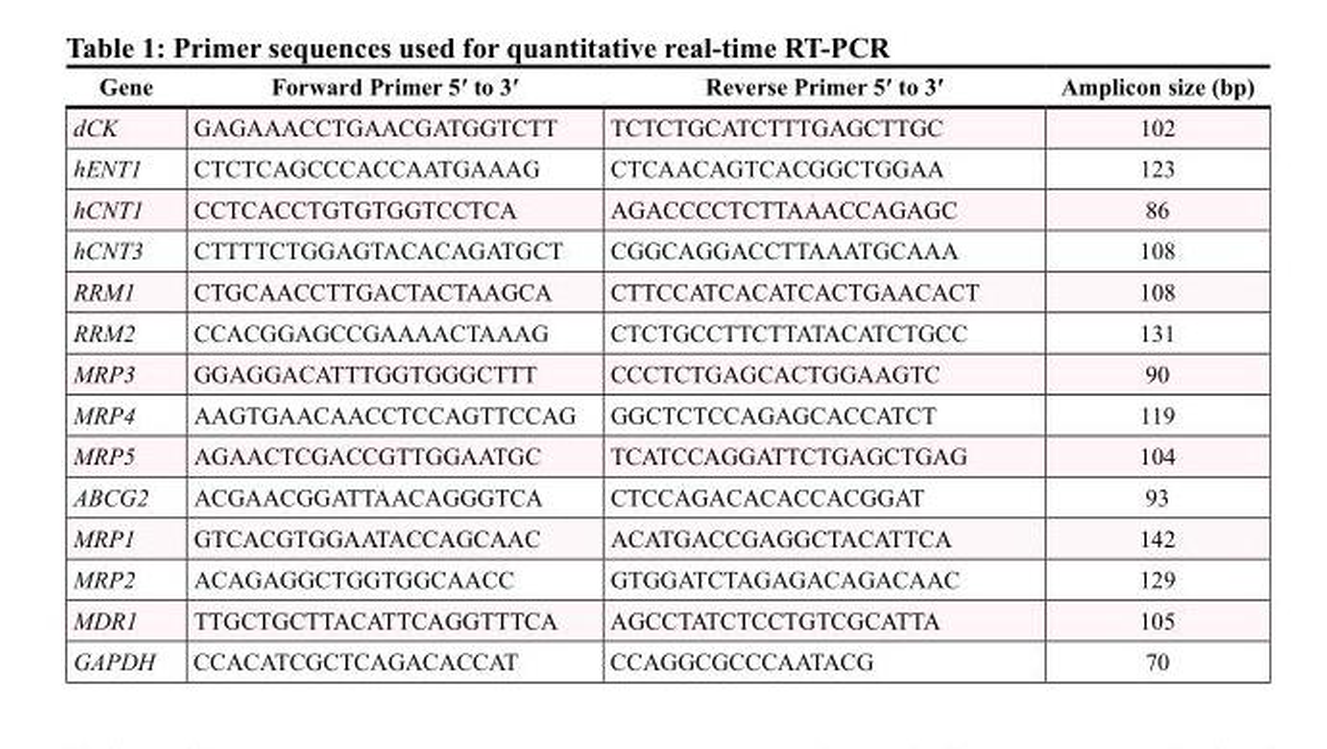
<table><thead><tr><td>Gene</td><td>Forward Primer 5′ to 3′</td><td>Reverse Primer 5′ to 3′</td><td>Amplicon size (bp)</td></tr></thead><tbody><tr><td>dCK</td><td>GAGAAACCTGAACGATGGTCTT</td><td>TCTCTGCATCTTTGAGCTTGC</td><td>102</td></tr><tr><td>hENT1</td><td>CTCTCAGCCCACCAATGAAAG</td><td>CTCAACAGTCACGGCTGGAA</td><td>123</td></tr><tr><td>hCNT1</td><td>CCTCACCTGTGTGGTCCTCA</td><td>AGACCCCTCTTAAACCAGAGC</td><td>86</td></tr><tr><td>hCNT3</td><td>CTTTTCTGGAGTACACAGATGCT</td><td>CGGCAGGACCTTAAATGCAAA</td><td>108</td></tr><tr><td>RRM1</td><td>CTGCAACCTTGACTACTAAGCA</td><td>CTTCCATCACATCACTGAACACT</td><td>108</td></tr><tr><td>RRM2</td><td>CCACGGAGCCGAAAACTAAAG</td><td>CTCTGCCTTCTTATACATCTGCC</td><td>131</td></tr><tr><td>MRP3</td><td>GGAGGACATTTGGTGGGCTTT</td><td>CCCTCTGAGCACTGGAAGTC</td><td>90</td></tr><tr><td>MRP4</td><td>AAGTGAACAACCTCCAGTTCCAG</td><td>GGCTCTCCAGAGCACCATCT</td><td>119</td></tr><tr><td>MRP5</td><td>AGAACTCGACCGTTGGAATGC</td><td>TCATCCAGGATTCTGAGCTGAG</td><td>104</td></tr><tr><td>ABCG2</td><td>ACGAACGGATTAACAGGGTCA</td><td>CTCCAGACACACCACGGAT</td><td>93</td></tr><tr><td>MRP1</td><td>GTCACGTGGAATACCAGCAAC</td><td>ACATGACCGAGGCTACATTCA</td><td>142</td></tr><tr><td>MRP2</td><td>ACAGAGGCTGGTGGCAACC</td><td>GTGGATCTAGAGACAGACAAC</td><td>129</td></tr><tr><td>MDR1</td><td>TTGCTGCTTACATTCAGGTTTCA</td><td>AGCCTATCTCCTGTCGCATTA</td><td>105</td></tr><tr><td>GAPDH</td><td>CCACATCGCTCAGACACCAT</td><td>CCAGGCGCCCAATACG</td><td>70</td></tr></tbody></table>